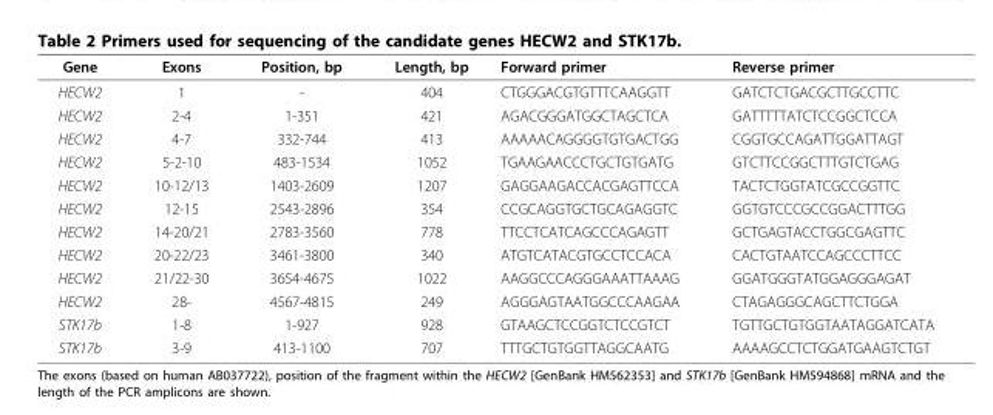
<table><thead><tr><td>Gene</td><td>Exons</td><td>Position, bp</td><td>Length, bp</td><td>Forward primer</td><td>Reverse primer</td></tr></thead><tbody><tr><td>HECW2</td><td>1</td><td>-</td><td>404</td><td>CTGGGACGTGTTTCAAGGTT</td><td>GATCTCTGACGCTTGCCTTC</td></tr><tr><td>HECW2</td><td>2-4</td><td>1-351</td><td>421</td><td>AGACGGGATGGCTAGCTCA</td><td>GATTTTTATCTCCGGCTCCA</td></tr><tr><td>HECW2</td><td>4-7</td><td>332-744</td><td>413</td><td>AAAAACAGGGGTGTGACTGG</td><td>CGGTGCCAGATTGGATTAGT</td></tr><tr><td>HECW2</td><td>5-2-10</td><td>483-1534</td><td>1052</td><td>TGAAGAACCCTGCTGTGATG</td><td>GTCTTCCGGCTTTGTCTGAG</td></tr><tr><td>HECW2</td><td>10-12/13</td><td>1403-2609</td><td>1207</td><td>GAGGAAGACCACGAGTTCCA</td><td>TACTCTGGTATCGCCGGTTC</td></tr><tr><td>HECW2</td><td>12-15</td><td>2543-2896</td><td>354</td><td>CCGCAGGTGCTGCAGAGGTC</td><td>GGTGTCCCGCCGGACTTTGG</td></tr><tr><td>HECW2</td><td>14-20/21</td><td>2783-3560</td><td>778</td><td>TTCCTCATCAGCCCAGAGTT</td><td>GCTGAGTACCTGGCGAGTTC</td></tr><tr><td>HECW2</td><td>20-22/23</td><td>3461-3800</td><td>340</td><td>ATGTCATACGTGCCTCCACA</td><td>CACTGTAATCCAGCCCTTCC</td></tr><tr><td>HECW2</td><td>21/22-30</td><td>3654-4675</td><td>1022</td><td>AAGGCCCAGGGAAATTAAAG</td><td>GGATGGGTATGGAGGGAGAT</td></tr><tr><td>HECW2</td><td>28-</td><td>4567-4815</td><td>249</td><td>AGGGAGTAATGGCCCAAGAA</td><td>CTAGAGGGCAGCTTCTGGA</td></tr><tr><td>STK17b</td><td>1-8</td><td>1-927</td><td>928</td><td>GTAAGCTCCGGTCTCCGTCT</td><td>TGTTGCTGTGGTAATAGGATCATA</td></tr><tr><td>STK17b</td><td>3-9</td><td>413-1100</td><td>707</td><td>TTTGCTGTGGTTAGGCAATG</td><td>AAAAGCCTCTGGATGAAGTCTGT</td></tr></tbody></table>